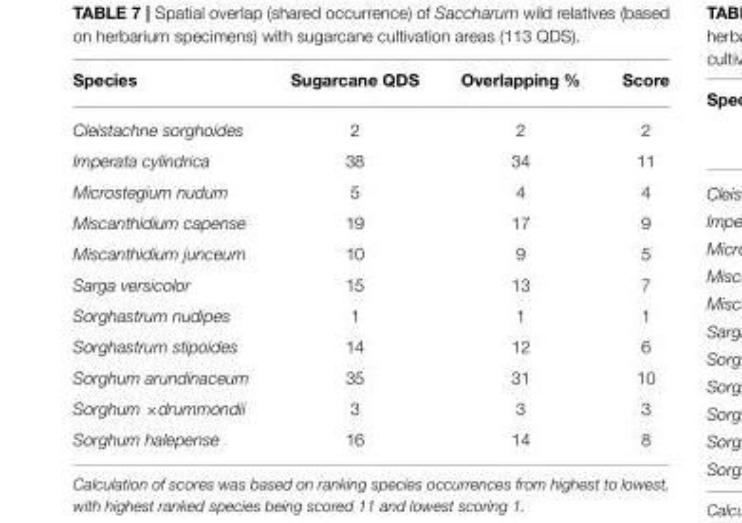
<table><thead><tr><td>Species</td><td>Sugarcane QDS</td><td>Overlapping %</td><td>Score</td></tr></thead><tbody><tr><td>Cleistachne sorghoides</td><td>2</td><td>2</td><td>2</td></tr><tr><td>Imperata cylindrica</td><td>38</td><td>34</td><td>11</td></tr><tr><td>Microstegium nudum</td><td>5</td><td>4</td><td>4</td></tr><tr><td>Miscanthidium capense</td><td>19</td><td>17</td><td>9</td></tr><tr><td>Miscanthidium junceum</td><td>10</td><td>9</td><td>5</td></tr><tr><td>Sarga versicolor</td><td>15</td><td>13</td><td>7</td></tr><tr><td>Sorghastrum nudipes</td><td>1</td><td>1</td><td>1</td></tr><tr><td>Sorghastrum stipoides</td><td>14</td><td>12</td><td>6</td></tr><tr><td>Sorghum arundinaceum</td><td>35</td><td>31</td><td>10</td></tr><tr><td>Sorghum ×drummondii</td><td>3</td><td>3</td><td>3</td></tr><tr><td>Sorghum halepense</td><td>16</td><td>14</td><td>8</td></tr></tbody></table>